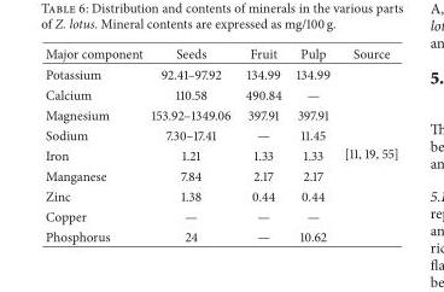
<table><thead><tr><td>Major component</td><td>Seeds</td><td>Fruit</td><td>Pulp</td><td>Source</td></tr></thead><tbody><tr><td>Potassium</td><td>92.41–97.92</td><td>134.99</td><td>134.99</td><td rowspan="9">[11, 19, 55]</td></tr><tr><td>Calcium</td><td>110.58</td><td>490.84</td><td>—</td></tr><tr><td>Magnesium</td><td>153.92–1349.06</td><td>397.91</td><td>397.91</td></tr><tr><td>Sodium</td><td>7.30–17.41</td><td>—</td><td>11.45</td></tr><tr><td>Iron</td><td>1.21</td><td>1.33</td><td>1.33</td></tr><tr><td>Manganese</td><td>7.84</td><td>2.17</td><td>2.17</td></tr><tr><td>Zinc</td><td>1.38</td><td>0.44</td><td>0.44</td></tr><tr><td>Copper</td><td>—</td><td>—</td><td>—</td></tr><tr><td>Phosphorus</td><td>24</td><td>—</td><td>10.62</td></tr></tbody></table>